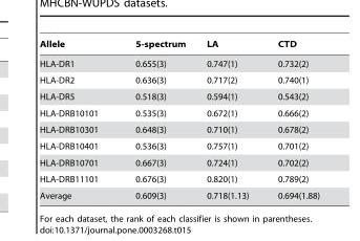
<table><thead><tr><td>Allele</td><td>5-spectrum</td><td>LA</td><td>CTD</td></tr></thead><tbody><tr><td>HLA-DR1</td><td>0.655(3)</td><td>0.747(1)</td><td>0.732(2)</td></tr><tr><td>HLA-DR2</td><td>0.636(3)</td><td>0.717(2)</td><td>0.740(1)</td></tr><tr><td>HLA-DR5</td><td>0.518(3)</td><td>0.594(1)</td><td>0.543(2)</td></tr><tr><td>HLA-DRB10101</td><td>0.535(3)</td><td>0.672(1)</td><td>0.666(2)</td></tr><tr><td>HLA-DRB10301</td><td>0.648(3)</td><td>0.710(1)</td><td>0.678(2)</td></tr><tr><td>HLA-DRB10401</td><td>0.536(3)</td><td>0.757(1)</td><td>0.701(2)</td></tr><tr><td>HLA-DRB10701</td><td>0.667(3)</td><td>0.724(1)</td><td>0.702(2)</td></tr><tr><td>HLA-DRB11101</td><td>0.676(3)</td><td>0.820(1)</td><td>0.789(2)</td></tr><tr><td>Average</td><td>0.609(3)</td><td>0.718(1.13)</td><td>0.694(1.88)</td></tr></tbody></table>